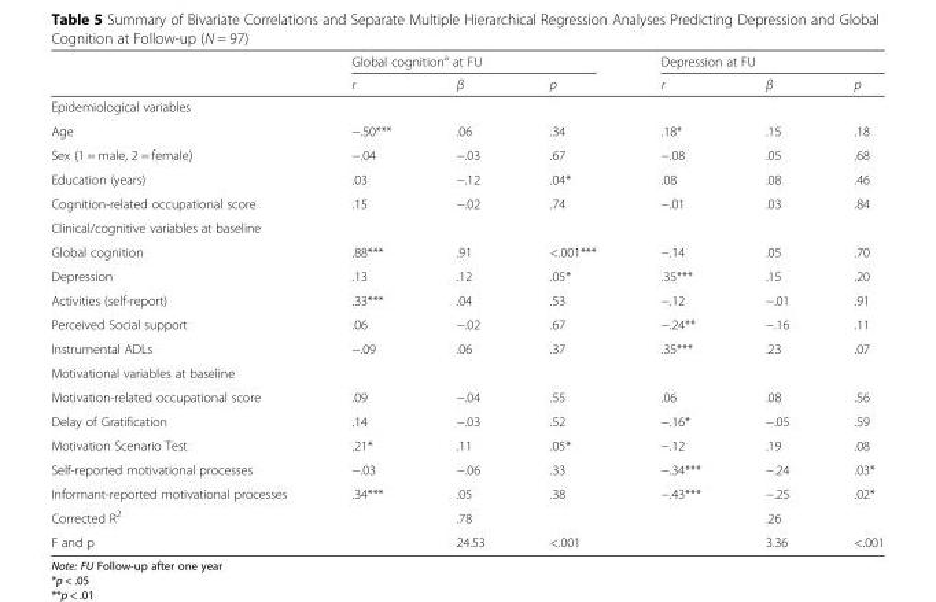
<table><thead><tr><td rowspan="2"></td><td colspan="3">Global cognition<sup>a</sup> at FU</td><td colspan="3">Depression at FU</td></tr><tr><td>r</td><td>β</td><td>p</td><td>r</td><td>β</td><td>p</td></tr></thead><tbody><tr><td colspan="7">Epidemiological variables</td></tr><tr><td>Age</td><td>−.50***</td><td>.06</td><td>.34</td><td>.18*</td><td>.15</td><td>.18</td></tr><tr><td>Sex (1 = male, 2 = female)</td><td>−.04</td><td>−.03</td><td>.67</td><td>−.08</td><td>.05</td><td>.68</td></tr><tr><td>Education (years)</td><td>.03</td><td>−.12</td><td>.04*</td><td>.08</td><td>.08</td><td>.46</td></tr><tr><td>Cognition-related occupational score</td><td>.15</td><td>−.02</td><td>.74</td><td>−.01</td><td>.03</td><td>.84</td></tr><tr><td colspan="7">Clinical/cognitive variables at baseline</td></tr><tr><td>Global cognition</td><td>.88***</td><td>.91</td><td>&lt;.001***</td><td>−.14</td><td>.05</td><td>.70</td></tr><tr><td>Depression</td><td>.13</td><td>.12</td><td>.05*</td><td>.35***</td><td>.15</td><td>.20</td></tr><tr><td>Activities (self-report)</td><td>.33***</td><td>.04</td><td>.53</td><td>−.12</td><td>−.01</td><td>.91</td></tr><tr><td>Perceived Social support</td><td>.06</td><td>−.02</td><td>.67</td><td>−.24**</td><td>−.16</td><td>.11</td></tr><tr><td>Instrumental ADLs</td><td>−.09</td><td>.06</td><td>.37</td><td>.35***</td><td>.23</td><td>.07</td></tr><tr><td colspan="7">Motivational variables at baseline</td></tr><tr><td>Motivation-related occupational score</td><td>.09</td><td>−.04</td><td>.55</td><td>.06</td><td>.08</td><td>.56</td></tr><tr><td>Delay of Gratification</td><td>.14</td><td>−.03</td><td>.52</td><td>−.16*</td><td>−.05</td><td>.59</td></tr><tr><td>Motivation Scenario Test</td><td>.21*</td><td>.11</td><td>.05*</td><td>−.12</td><td>.19</td><td>.08</td></tr><tr><td>Self-reported motivational processes</td><td>−.03</td><td>−.06</td><td>.33</td><td>−.34***</td><td>−.24</td><td>.03*</td></tr><tr><td>Informant-reported motivational processes</td><td>.34***</td><td>.05</td><td>.38</td><td>−.43***</td><td>−.25</td><td>.02*</td></tr><tr><td>Corrected R<sup>2</sup></td><td></td><td>.78</td><td></td><td></td><td>.26</td><td></td></tr><tr><td>F and p</td><td></td><td>24.53</td><td>&lt;.001</td><td></td><td>3.36</td><td>&lt;.001</td></tr></tbody></table>